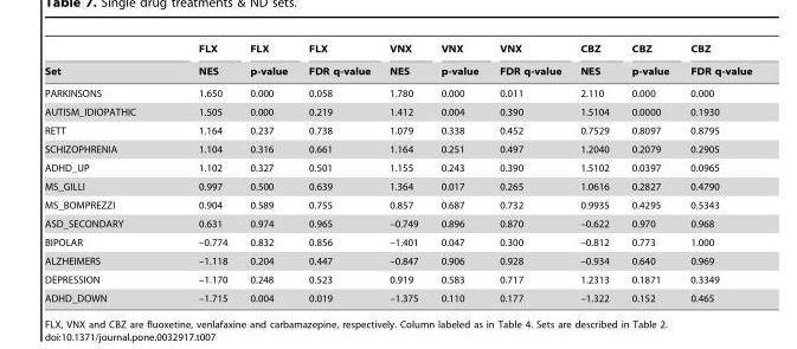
<table><thead><tr><td rowspan="2">Set</td><td rowspan="2">FLX NES</td><td rowspan="2">FLX p-value</td><td rowspan="2">FLX FDR q-value</td><td rowspan="2">VNX NES</td><td rowspan="2">VNX p-value</td><td rowspan="2">VNX FDR q-value</td><td rowspan="2">CBZ NES</td><td rowspan="2">CBZ p-value</td><td rowspan="2">CBZ FDR q-value</td></tr><tr></tr></thead><tbody><tr><td>PARKINSONS</td><td>1.650</td><td>0.000</td><td>0.058</td><td>1.780</td><td>0.000</td><td>0.011</td><td>2.110</td><td>0.000</td><td>0.000</td></tr><tr><td>AUTISM_IDIOPATHIC</td><td>1.505</td><td>0.000</td><td>0.219</td><td>1.412</td><td>0.004</td><td>0.390</td><td>1.5104</td><td>0.0000</td><td>0.1930</td></tr><tr><td>RETT</td><td>1.164</td><td>0.237</td><td>0.738</td><td>1.079</td><td>0.338</td><td>0.452</td><td>0.7529</td><td>0.8097</td><td>0.8795</td></tr><tr><td>SCHIZOPHRENIA</td><td>1.104</td><td>0.316</td><td>0.661</td><td>1.164</td><td>0.251</td><td>0.497</td><td>1.2040</td><td>0.2079</td><td>0.2905</td></tr><tr><td>ADHD_UP</td><td>1.102</td><td>0.327</td><td>0.501</td><td>1.155</td><td>0.243</td><td>0.390</td><td>1.5102</td><td>0.0397</td><td>0.0965</td></tr><tr><td>MS_GILLI</td><td>0.997</td><td>0.500</td><td>0.639</td><td>1.364</td><td>0.017</td><td>0.265</td><td>1.0616</td><td>0.2827</td><td>0.4790</td></tr><tr><td>MS_BOMPREZZI</td><td>0.904</td><td>0.589</td><td>0.755</td><td>0.857</td><td>0.687</td><td>0.732</td><td>0.9935</td><td>0.4295</td><td>0.5343</td></tr><tr><td>ASD_SECONDARY</td><td>0.631</td><td>0.974</td><td>0.965</td><td>–0.749</td><td>0.896</td><td>0.870</td><td>–0.622</td><td>0.970</td><td>0.968</td></tr><tr><td>BIPOLAR</td><td>–0.774</td><td>0.832</td><td>0.856</td><td>–1.401</td><td>0.047</td><td>0.300</td><td>–0.812</td><td>0.773</td><td>1.000</td></tr><tr><td>ALZHEIMERS</td><td>–1.118</td><td>0.204</td><td>0.447</td><td>–0.847</td><td>0.906</td><td>0.928</td><td>–0.934</td><td>0.640</td><td>0.969</td></tr><tr><td>DEPRESSION</td><td>–1.170</td><td>0.248</td><td>0.523</td><td>0.919</td><td>0.583</td><td>0.717</td><td>1.2313</td><td>0.1871</td><td>0.3349</td></tr><tr><td>ADHD_DOWN</td><td>–1.715</td><td>0.004</td><td>0.019</td><td>–1.375</td><td>0.110</td><td>0.177</td><td>–1.322</td><td>0.152</td><td>0.465</td></tr></tbody></table>